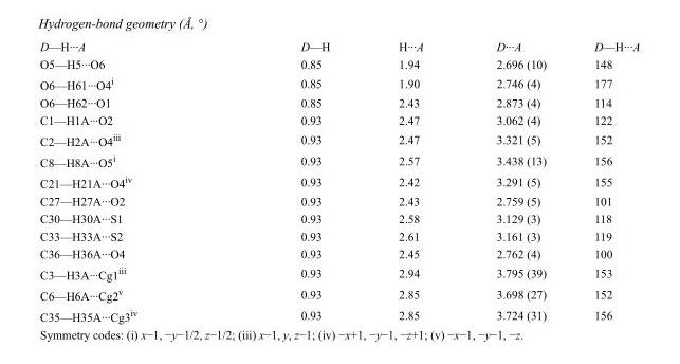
<table><tbody><tr><td>D—H···A</td><td>D—H</td><td>H···A</td><td>D···A</td><td>D—H···A</td></tr><tr><td>O5—H5···O6</td><td>0.85</td><td>1.94</td><td>2.696 (10)</td><td>148</td></tr><tr><td>O6—H61···O4<sup>i</sup></td><td>0.85</td><td>1.90</td><td>2.746 (4)</td><td>177</td></tr><tr><td>O6—H62···O1</td><td>0.85</td><td>2.43</td><td>2.873 (4)</td><td>114</td></tr><tr><td>C1—H1A···O2</td><td>0.93</td><td>2.47</td><td>3.062 (4)</td><td>122</td></tr><tr><td>C2—H2A···O4<sup>iii</sup></td><td>0.93</td><td>2.47</td><td>3.321 (5)</td><td>152</td></tr><tr><td>C8—H8A···O5<sup>i</sup></td><td>0.93</td><td>2.57</td><td>3.438 (13)</td><td>156</td></tr><tr><td>C21—H21A···O4<sup>iv</sup></td><td>0.93</td><td>2.42</td><td>3.291 (5)</td><td>155</td></tr><tr><td>C27—H27A···O2</td><td>0.93</td><td>2.43</td><td>2.759 (5)</td><td>101</td></tr><tr><td>C30—H30A···S1</td><td>0.93</td><td>2.58</td><td>3.129 (3)</td><td>118</td></tr><tr><td>C33—H33A···S2</td><td>0.93</td><td>2.61</td><td>3.161 (3)</td><td>119</td></tr><tr><td>C36—H36A···O4</td><td>0.93</td><td>2.45</td><td>2.762 (4)</td><td>100</td></tr><tr><td>C3—H3A···Cg1<sup>iii</sup></td><td>0.93</td><td>2.94</td><td>3.795 (39)</td><td>153</td></tr><tr><td>C6—H6A···Cg2<sup>v</sup></td><td>0.93</td><td>2.85</td><td>3.698 (27)</td><td>152</td></tr><tr><td>C35—H35A···Cg3<sup>iv</sup></td><td>0.93</td><td>2.85</td><td>3.724 (31)</td><td>156</td></tr></tbody></table>